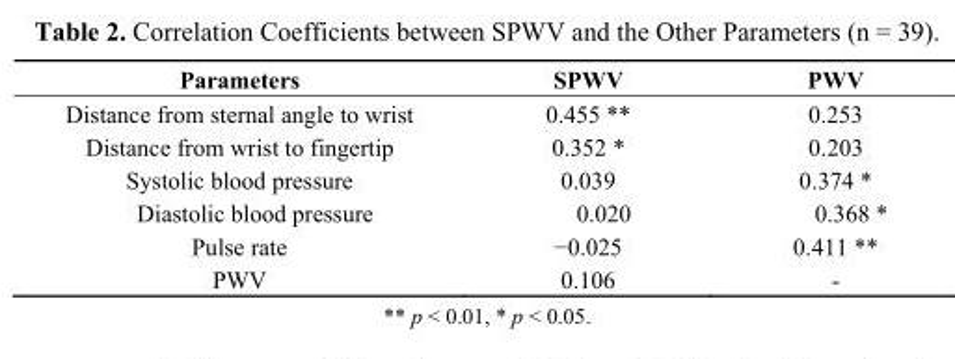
<table><thead><tr><td>Parameters</td><td>SPWV</td><td>PWV</td></tr></thead><tbody><tr><td>Distance from sternal angle to wrist</td><td>0.455 **</td><td>0.253</td></tr><tr><td>Distance from wrist to fingertip</td><td>0.352 *</td><td>0.203</td></tr><tr><td>Systolic blood pressure</td><td>0.039</td><td>0.374 *</td></tr><tr><td>Diastolic blood pressure</td><td>0.020</td><td>0.368 *</td></tr><tr><td>Pulse rate</td><td>−0.025</td><td>0.411 **</td></tr><tr><td>PWV</td><td>0.106</td><td>-</td></tr></tbody></table>